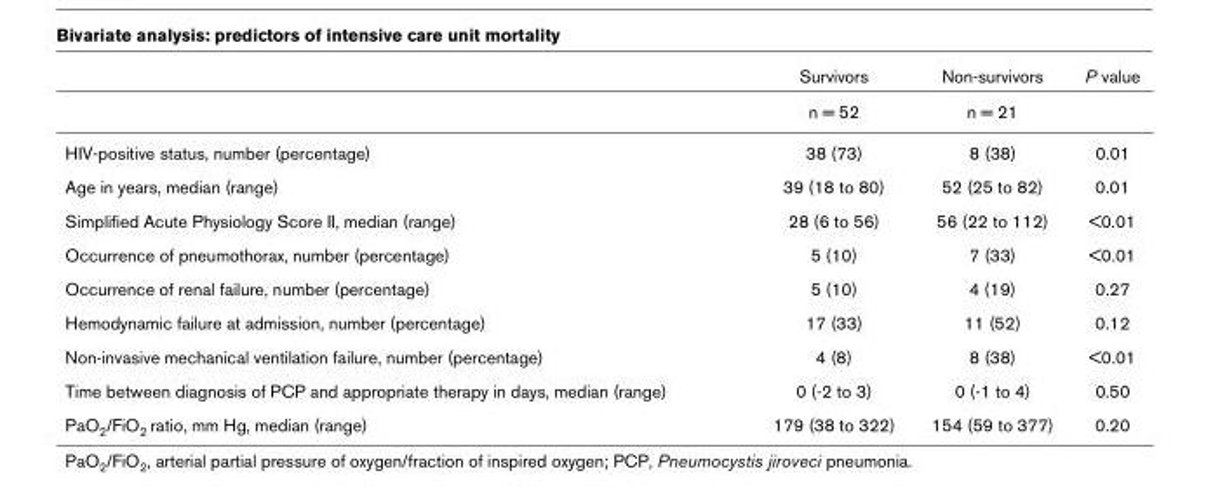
<table><thead><tr><td></td><td>Survivors</td><td>Non-survivors</td><td>P value</td></tr></thead><tbody><tr><td></td><td>n = 52</td><td>n = 21</td><td></td></tr><tr><td>HIV-positive status, number (percentage)</td><td>38 (73)</td><td>8 (38)</td><td>0.01</td></tr><tr><td>Age in years, median (range)</td><td>39 (18 to 80)</td><td>52 (25 to 82)</td><td>0.01</td></tr><tr><td>Simplified Acute Physiology Score II, median (range)</td><td>28 (6 to 56)</td><td>56 (22 to 112)</td><td>&lt;0.01</td></tr><tr><td>Occurrence of pneumothorax, number (percentage)</td><td>5 (10)</td><td>7 (33)</td><td>&lt;0.01</td></tr><tr><td>Occurrence of renal failure, number (percentage)</td><td>5 (10)</td><td>4 (19)</td><td>0.27</td></tr><tr><td>Hemodynamic failure at admission, number (percentage)</td><td>17 (33)</td><td>11 (52)</td><td>0.12</td></tr><tr><td>Non-invasive mechanical ventilation failure, number (percentage)</td><td>4 (8)</td><td>8 (38)</td><td>&lt;0.01</td></tr><tr><td>Time between diagnosis of PCP and appropriate therapy in days, median (range)</td><td>0 (-2 to 3)</td><td>0 (-1 to 4)</td><td>0.50</td></tr><tr><td>PaO<sub>2</sub>/FiO<sub>2</sub> ratio, mm Hg, median (range)</td><td>179 (38 to 322)</td><td>154 (59 to 377)</td><td>0.20</td></tr></tbody></table>